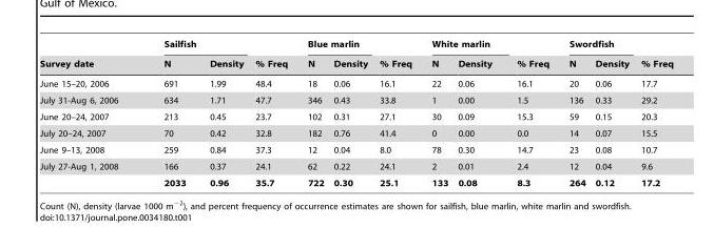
<table><thead><tr><td rowspan="2">Survey date</td><td colspan="2">Sailfish</td><td rowspan="2">% Freq</td><td colspan="2">Blue marlin</td><td rowspan="2">% Freq</td><td colspan="2">White marlin</td><td rowspan="2">% Freq</td><td colspan="2">Swordfish</td><td rowspan="2">% Freq</td></tr><tr><td>N</td><td>Density</td><td>N</td><td>Density</td><td>N</td><td>Density</td><td>N</td><td>Density</td></tr></thead><tbody><tr><td>June 15–20, 2006</td><td>691</td><td>1.99</td><td>48.4</td><td>18</td><td>0.06</td><td>16.1</td><td>22</td><td>0.06</td><td>16.1</td><td>20</td><td>0.06</td><td>17.7</td></tr><tr><td>July 31-Aug 6, 2006</td><td>634</td><td>1.71</td><td>47.7</td><td>346</td><td>0.43</td><td>33.8</td><td>1</td><td>0.00</td><td>1.5</td><td>136</td><td>0.33</td><td>29.2</td></tr><tr><td>June 20–24, 2007</td><td>213</td><td>0.45</td><td>23.7</td><td>102</td><td>0.31</td><td>27.1</td><td>30</td><td>0.09</td><td>15.3</td><td>59</td><td>0.15</td><td>20.3</td></tr><tr><td>July 20–24, 2007</td><td>70</td><td>0.42</td><td>32.8</td><td>182</td><td>0.76</td><td>41.4</td><td>0</td><td>0.00</td><td>0.0</td><td>14</td><td>0.07</td><td>15.5</td></tr><tr><td>June 9–13, 2008</td><td>259</td><td>0.84</td><td>37.3</td><td>12</td><td>0.04</td><td>8.0</td><td>78</td><td>0.30</td><td>14.7</td><td>23</td><td>0.08</td><td>10.7</td></tr><tr><td rowspan="2">July 27-Aug 1, 2008</td><td>166</td><td>0.37</td><td>24.1</td><td>62</td><td>0.22</td><td>24.1</td><td>2</td><td>0.01</td><td>2.4</td><td>12</td><td>0.04</td><td>9.6</td></tr><tr><td>2033</td><td>0.96</td><td>35.7</td><td>722</td><td>0.30</td><td>25.1</td><td>133</td><td>0.08</td><td>8.3</td><td>264</td><td>0.12</td><td>17.2</td></tr></tbody></table>